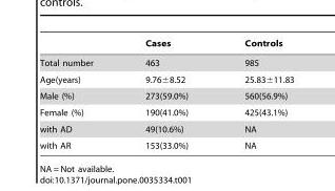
<table><thead><tr><td></td><td>Cases</td><td>Controls</td></tr></thead><tbody><tr><td>Total number</td><td>463</td><td>985</td></tr><tr><td>Age(years)</td><td>9.76±8.52</td><td>25.83±11.83</td></tr><tr><td>Male (%)</td><td>273(59.0%)</td><td>560(56.9%)</td></tr><tr><td>Female (%)</td><td>190(41.0%)</td><td>425(43.1%)</td></tr><tr><td>with AD</td><td>49(10.6%)</td><td>NA</td></tr><tr><td>with AR</td><td>153(33.0%)</td><td>NA</td></tr></tbody></table>